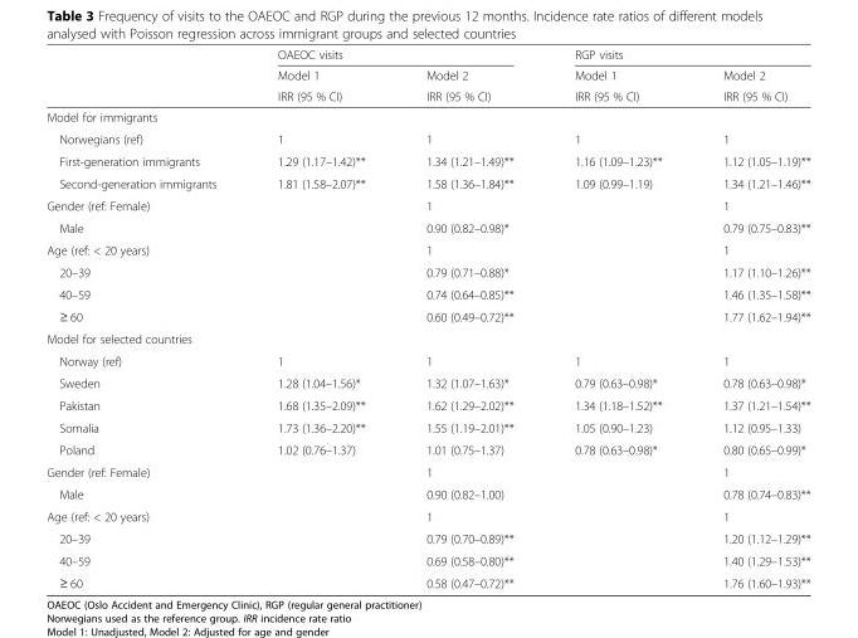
<table><thead><tr><td rowspan="3"></td><td colspan="2">OAEOC visits</td><td colspan="2">RGP visits</td></tr><tr><td rowspan="2">Model 1 IRR (95 % CI)</td><td rowspan="2">Model 2 IRR (95 % CI)</td><td rowspan="2">Model 1 IRR (95 % CI)</td><td rowspan="2">Model 2 IRR (95 % CI)</td></tr><tr></tr></thead><tbody><tr><td colspan="5">Model for immigrants</td></tr><tr><td>Norwegians (ref)</td><td>1</td><td>1</td><td>1</td><td>1</td></tr><tr><td>First-generation immigrants</td><td>1.29 (1.17–1.42)**</td><td>1.34 (1.21–1.49)**</td><td>1.16 (1.09–1.23)**</td><td>1.12 (1.05–1.19)**</td></tr><tr><td>Second-generation immigrants</td><td>1.81 (1.58–2.07)**</td><td>1.58 (1.36–1.84)**</td><td>1.09 (0.99–1.19)</td><td>1.34 (1.21–1.46)**</td></tr><tr><td>Gender (ref: Female)</td><td></td><td>1</td><td></td><td>1</td></tr><tr><td>Male</td><td></td><td>0.90 (0.82–0.98)*</td><td></td><td>0.79 (0.75–0.83)**</td></tr><tr><td>Age (ref: &lt; 20 years)</td><td></td><td>1</td><td></td><td>1</td></tr><tr><td>20–39</td><td></td><td>0.79 (0.71–0.88)*</td><td></td><td>1.17 (1.10–1.26)**</td></tr><tr><td>40–59</td><td></td><td>0.74 (0.64–0.85)**</td><td></td><td>1.46 (1.35–1.58)**</td></tr><tr><td>≥ 60</td><td></td><td>0.60 (0.49–0.72)**</td><td></td><td>1.77 (1.62–1.94)**</td></tr><tr><td colspan="5">Model for selected countries</td></tr><tr><td>Norway (ref)</td><td>1</td><td>1</td><td>1</td><td>1</td></tr><tr><td>Sweden</td><td>1.28 (1.04–1.56)*</td><td>1.32 (1.07–1.63)*</td><td>0.79 (0.63–0.98)*</td><td>0.78 (0.63–0.98)*</td></tr><tr><td>Pakistan</td><td>1.68 (1.35–2.09)**</td><td>1.62 (1.29–2.02)**</td><td>1.34 (1.18–1.52)**</td><td>1.37 (1.21–1.54)**</td></tr><tr><td>Somalia</td><td>1.73 (1.36–2.20)**</td><td>1.55 (1.19–2.01)**</td><td>1.05 (0.90–1.23)</td><td>1.12 (0.95–1.33)</td></tr><tr><td>Poland</td><td>1.02 (0.76–1.37)</td><td>1.01 (0.75–1.37)</td><td>0.78 (0.63–0.98)*</td><td>0.80 (0.65–0.99)*</td></tr><tr><td>Gender (ref: Female)</td><td></td><td>1</td><td></td><td>1</td></tr><tr><td>Male</td><td></td><td>0.90 (0.82–1.00)</td><td></td><td>0.78 (0.74–0.83)**</td></tr><tr><td>Age (ref: &lt; 20 years)</td><td></td><td>1</td><td></td><td>1</td></tr><tr><td>20–39</td><td></td><td>0.79 (0.70–0.89)**</td><td></td><td>1.20 (1.12–1.29)**</td></tr><tr><td>40–59</td><td></td><td>0.69 (0.58–0.80)**</td><td></td><td>1.40 (1.29–1.53)**</td></tr><tr><td>≥ 60</td><td></td><td>0.58 (0.47–0.72)**</td><td></td><td>1.76 (1.60–1.93)**</td></tr></tbody></table>